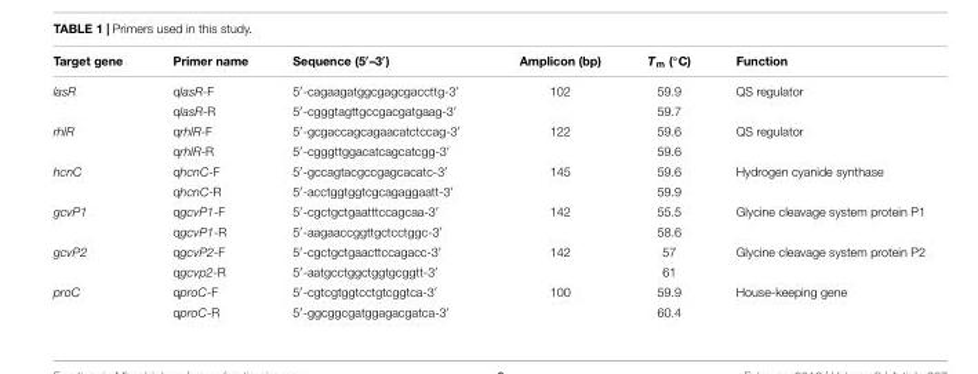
<table><thead><tr><td>Target gene</td><td>Primer name</td><td>Sequence (5′–3′)</td><td>Amplicon (bp)</td><td>Tm (◦C)</td><td>Function</td></tr></thead><tbody><tr><td rowspan="2">lasR</td><td>qlasR-F</td><td>5′-cagaagatggcgagcgaccttg-3′</td><td>102</td><td>59.9</td><td>QS regulator</td></tr><tr><td>qlasR-R</td><td>5′-cgggtagttgccgacgatgaag-3′</td><td></td><td>59.7</td><td></td></tr><tr><td rowspan="2">rhlR</td><td>qrhlR-F</td><td>5′-gcgaccagcagaacatctccag-3′</td><td>122</td><td>59.6</td><td>QS regulator</td></tr><tr><td>qrhlR-R</td><td>5′-cgggttggacatcagcatcgg-3′</td><td></td><td>59.6</td><td></td></tr><tr><td rowspan="2">hcnC</td><td>qhcnC-F</td><td>5′-gccagtacgccgagcacatc-3′</td><td>145</td><td>59.6</td><td>Hydrogen cyanide synthase</td></tr><tr><td>qhcnC-R</td><td>5′-acctggtggtcgcagaggaatt-3′</td><td></td><td>59.9</td><td></td></tr><tr><td rowspan="2">gcvP1</td><td>qgcvP1-F</td><td>5′-cgctgctgaatttccagcaa-3′</td><td>142</td><td>55.5</td><td>Glycine cleavage system protein P1</td></tr><tr><td>qgcvP1-R</td><td>5′-aagaaccggttgctcctggc-3′</td><td></td><td>58.6</td><td></td></tr><tr><td rowspan="2">gcvP2</td><td>qgcvP2-F</td><td>5′-cgctgctgaacttccagacc-3′</td><td>142</td><td>57</td><td>Glycine cleavage system protein P2</td></tr><tr><td>qgcvp2-R</td><td>5′-aatgcctggctggtgcggtt-3′</td><td></td><td>61</td><td></td></tr><tr><td rowspan="2">proC</td><td>qproC-F</td><td>5′-cgtcgtggtcctgtcggtca-3′</td><td>100</td><td>59.9</td><td>House-keeping gene</td></tr><tr><td>qproC-R</td><td>5′-ggcggcgatggagacgatca-3′</td><td></td><td>60.4</td><td></td></tr></tbody></table>